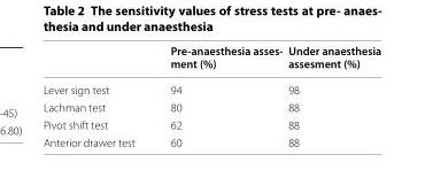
<table><thead><tr><td></td><td>Pre-anaesthesia asses- ment (%)</td><td>Under anaesthesia assesment (%)</td></tr></thead><tbody><tr><td>Lever sign test</td><td>94</td><td>98</td></tr><tr><td>Lachman test</td><td>80</td><td>88</td></tr><tr><td>Pivot shift test</td><td>62</td><td>88</td></tr><tr><td>Anterior drawer test</td><td>60</td><td>88</td></tr></tbody></table>